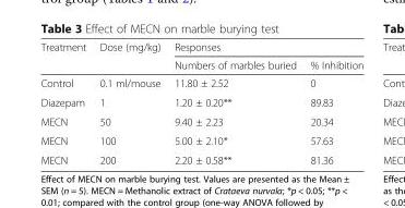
<table><thead><tr><td rowspan="2">Treatment</td><td rowspan="2">Dose (mg/kg)</td><td colspan="2">Responses</td></tr><tr><td>Numbers of marbles buried</td><td>% Inhibition</td></tr></thead><tbody><tr><td>Control</td><td>0.1 ml/mouse</td><td>11.80 ± 2.52</td><td>0</td></tr><tr><td>Diazepam</td><td>1</td><td>1.20 ± 0.20**</td><td>89.83</td></tr><tr><td>MECN</td><td>50</td><td>9.40 ± 2.23</td><td>20.34</td></tr><tr><td>MECN</td><td>100</td><td>5.00 ± 2.10*</td><td>57.63</td></tr><tr><td>MECN</td><td>200</td><td>2.20 ± 0.58**</td><td>81.36</td></tr></tbody></table>